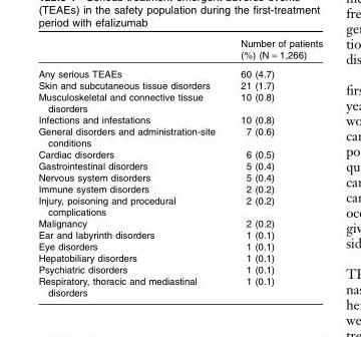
<table><thead><tr><td></td><td>Number of patients (%) (N = 1,266)</td></tr></thead><tbody><tr><td>Any serious TEAEs</td><td>60 (4.7)</td></tr><tr><td>Skin and subcutaneous tissue disorders</td><td>21 (1.7)</td></tr><tr><td>Musculoskeletal and connective tissue disorders</td><td>10 (0.8)</td></tr><tr><td>Infections and infestations</td><td>10 (0.8)</td></tr><tr><td>General disorders and administration-site conditions</td><td>7 (0.6)</td></tr><tr><td>Cardiac disorders</td><td>6 (0.5)</td></tr><tr><td>Gastrointestinal disorders</td><td>5 (0.4)</td></tr><tr><td>Nervous system disorders</td><td>5 (0.4)</td></tr><tr><td>Immune system disorders</td><td>2 (0.2)</td></tr><tr><td>Injury, poisoning and procedural complications</td><td>2 (0.2)</td></tr><tr><td>Malignancy</td><td>2 (0.2)</td></tr><tr><td>Ear and labyrinth disorders</td><td>1 (0.1)</td></tr><tr><td>Eye disorders</td><td>1 (0.1)</td></tr><tr><td>Hepatobiliary disorders</td><td>1 (0.1)</td></tr><tr><td>Psychiatric disorders</td><td>1 (0.1)</td></tr><tr><td>Respiratory, thoracic and mediastinal disorders</td><td>1 (0.1)</td></tr></tbody></table>